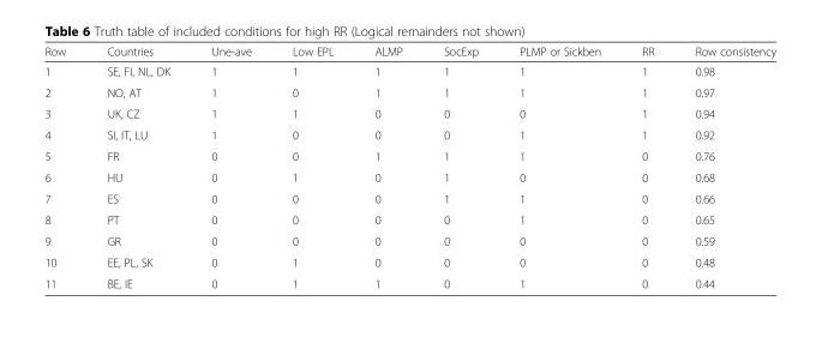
<table><thead><tr><td>Row</td><td>Countries</td><td>Une-ave</td><td>Low EPL</td><td>ALMP</td><td>SocExp</td><td>PLMP or Sickben</td><td>RR</td><td>Row consistency</td></tr></thead><tbody><tr><td>1</td><td>SE, FI, NL, DK</td><td>1</td><td>1</td><td>1</td><td>1</td><td>1</td><td>1</td><td>0.98</td></tr><tr><td>2</td><td>NO, AT</td><td>1</td><td>0</td><td>1</td><td>1</td><td>1</td><td>1</td><td>0.97</td></tr><tr><td>3</td><td>UK, CZ</td><td>1</td><td>1</td><td>0</td><td>0</td><td>0</td><td>1</td><td>0.94</td></tr><tr><td>4</td><td>SI, IT, LU</td><td>1</td><td>0</td><td>0</td><td>0</td><td>1</td><td>1</td><td>0.92</td></tr><tr><td>5</td><td>FR</td><td>0</td><td>0</td><td>1</td><td>1</td><td>1</td><td>0</td><td>0.76</td></tr><tr><td>6</td><td>HU</td><td>0</td><td>1</td><td>0</td><td>1</td><td>0</td><td>0</td><td>0.68</td></tr><tr><td>7</td><td>ES</td><td>0</td><td>0</td><td>0</td><td>1</td><td>1</td><td>0</td><td>0.66</td></tr><tr><td>8</td><td>PT</td><td>0</td><td>0</td><td>0</td><td>0</td><td>1</td><td>0</td><td>0.65</td></tr><tr><td>9</td><td>GR</td><td>0</td><td>0</td><td>0</td><td>0</td><td>0</td><td>0</td><td>0.59</td></tr><tr><td>10</td><td>EE, PL, SK</td><td>0</td><td>1</td><td>0</td><td>0</td><td>0</td><td>0</td><td>0.48</td></tr><tr><td>11</td><td>BE, IE</td><td>0</td><td>1</td><td>1</td><td>0</td><td>1</td><td>0</td><td>0.44</td></tr></tbody></table>